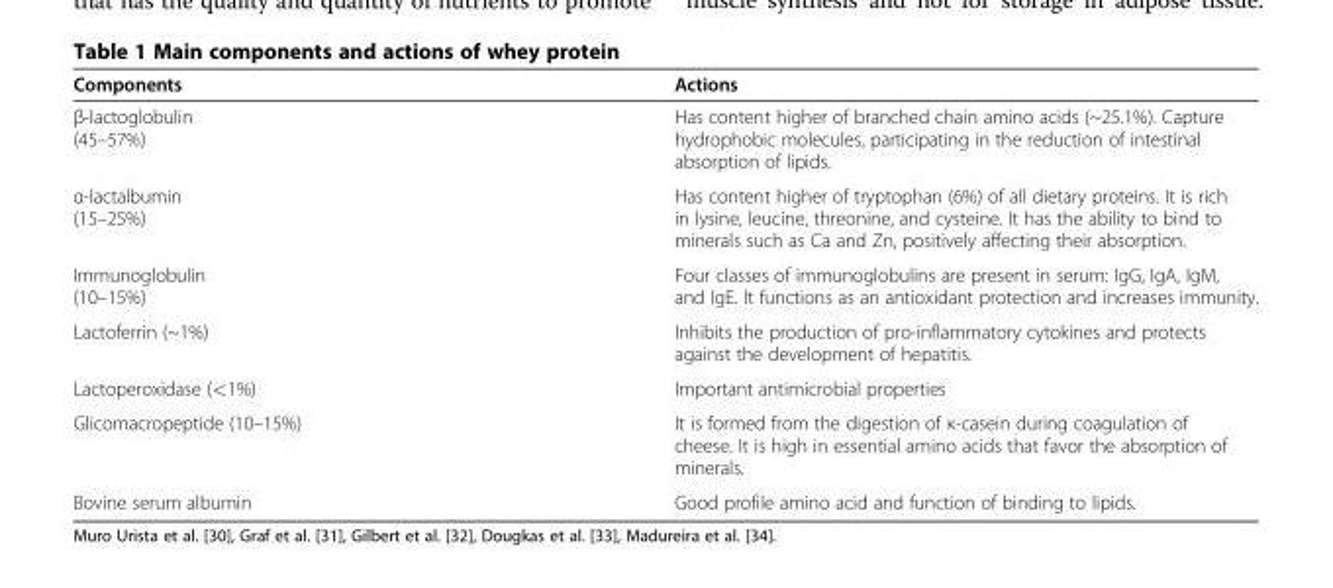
<table><thead><tr><td>Components</td><td>Actions</td></tr></thead><tbody><tr><td>β-lactoglobulin (45–57%)</td><td>Has content higher of branched chain amino acids (~25.1%). Capture hydrophobic molecules, participating in the reduction of intestinal absorption of lipids.</td></tr><tr><td>α-lactalbumin (15–25%)</td><td>Has content higher of tryptophan (6%) of all dietary proteins. It is rich in lysine, leucine, threonine, and cysteine. It has the ability to bind to minerals such as Ca and Zn, positively affecting their absorption.</td></tr><tr><td>Immunoglobulin (10–15%)</td><td>Four classes of immunoglobulins are present in serum: IgG, IgA, IgM, and IgE. It functions as an antioxidant protection and increases immunity.</td></tr><tr><td>Lactoferrin (~1%)</td><td>Inhibits the production of pro-inflammatory cytokines and protects against the development of hepatitis.</td></tr><tr><td>Lactoperoxidase (&lt;1%)</td><td>Important antimicrobial properties</td></tr><tr><td>Glicomacropeptide (10–15%)</td><td>It is formed from the digestion of κ-casein during coagulation of cheese. It is high in essential amino acids that favor the absorption of minerals.</td></tr><tr><td>Bovine serum albumin</td><td>Good profile amino acid and function of binding to lipids.</td></tr></tbody></table>